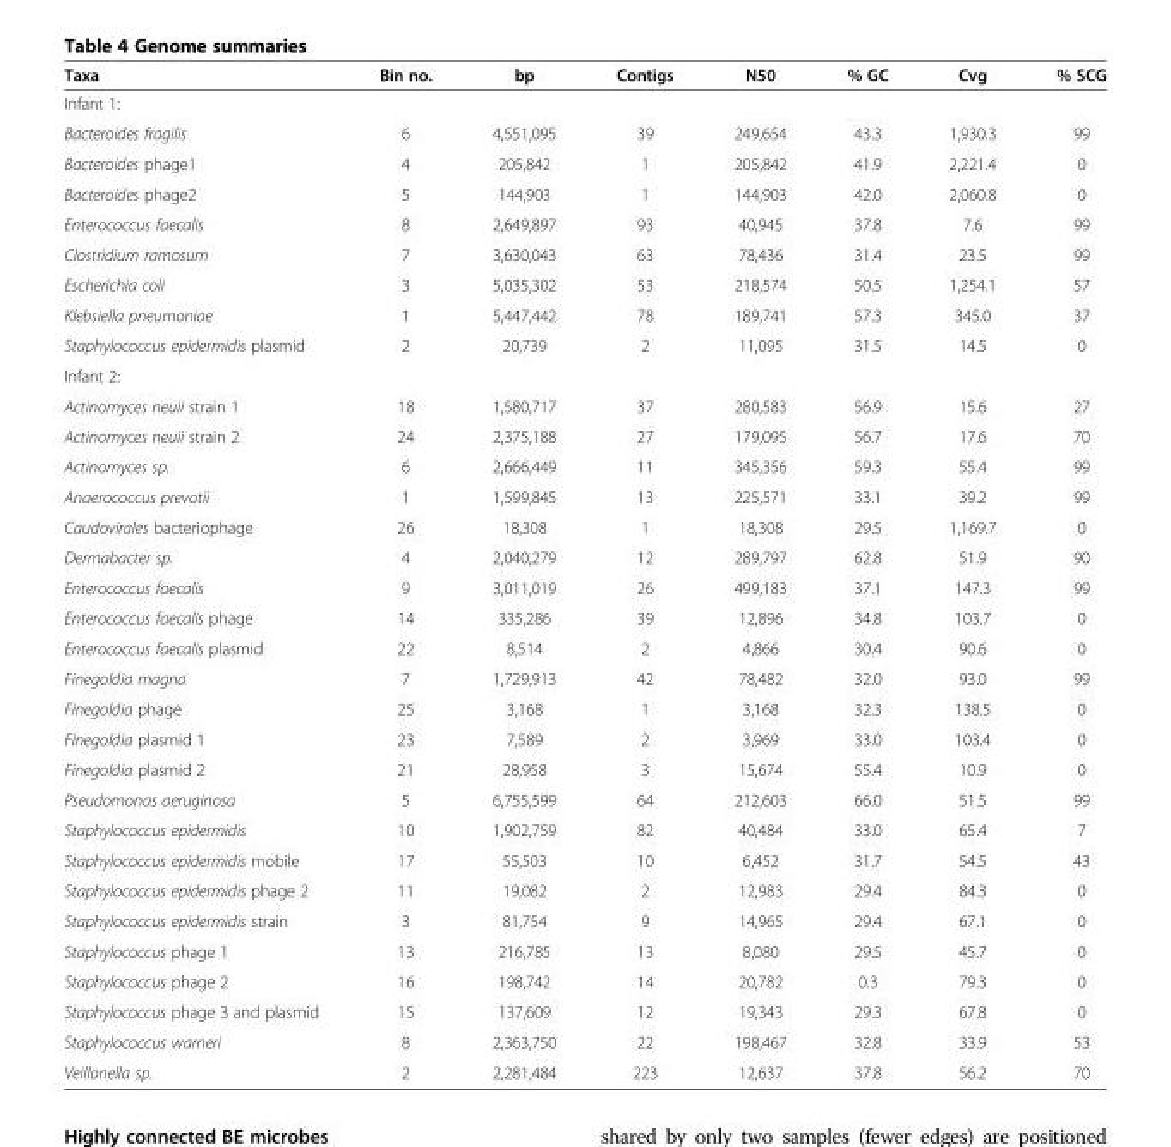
<table><thead><tr><td>Taxa</td><td>Bin no.</td><td>bp</td><td>Contigs</td><td>N50</td><td>% GC</td><td>Cvg</td><td>% SCG</td></tr></thead><tbody><tr><td colspan="8">Infant 1:</td></tr><tr><td>Bacteroides fragilis</td><td>6</td><td>4,551,095</td><td>39</td><td>249,654</td><td>43.3</td><td>1,930.3</td><td>99</td></tr><tr><td>Bacteroides phage1</td><td>4</td><td>205,842</td><td>1</td><td>205,842</td><td>41.9</td><td>2,221.4</td><td>0</td></tr><tr><td>Bacteroides phage2</td><td>5</td><td>144,903</td><td>1</td><td>144,903</td><td>42.0</td><td>2,060.8</td><td>0</td></tr><tr><td>Enterococcus faecalis</td><td>8</td><td>2,649,897</td><td>93</td><td>40,945</td><td>37.8</td><td>7.6</td><td>99</td></tr><tr><td>Clostridium ramosum</td><td>7</td><td>3,630,043</td><td>63</td><td>78,436</td><td>31.4</td><td>23.5</td><td>99</td></tr><tr><td>Escherichia coli</td><td>3</td><td>5,035,302</td><td>53</td><td>218,574</td><td>50.5</td><td>1,254.1</td><td>57</td></tr><tr><td>Klebsiella pneumoniae</td><td>1</td><td>5,447,442</td><td>78</td><td>189,741</td><td>57.3</td><td>345.0</td><td>37</td></tr><tr><td>Staphylococcus epidermidis plasmid</td><td>2</td><td>20,739</td><td>2</td><td>11,095</td><td>31.5</td><td>14.5</td><td>0</td></tr><tr><td colspan="8">Infant 2:</td></tr><tr><td>Actinomyces neuii strain 1</td><td>18</td><td>1,580,717</td><td>37</td><td>280,583</td><td>56.9</td><td>15.6</td><td>27</td></tr><tr><td>Actinomyces neuii strain 2</td><td>24</td><td>2,375,188</td><td>27</td><td>179,095</td><td>56.7</td><td>17.6</td><td>70</td></tr><tr><td>Actinomyces sp.</td><td>6</td><td>2,666,449</td><td>11</td><td>345,356</td><td>59.3</td><td>55.4</td><td>99</td></tr><tr><td>Anaerococcus prevotii</td><td>1</td><td>1,599,845</td><td>13</td><td>225,571</td><td>33.1</td><td>39.2</td><td>99</td></tr><tr><td>Caudovirales bacteriophage</td><td>26</td><td>18,308</td><td>1</td><td>18,308</td><td>29.5</td><td>1,169.7</td><td>0</td></tr><tr><td>Dermabacter sp.</td><td>4</td><td>2,040,279</td><td>12</td><td>289,797</td><td>62.8</td><td>51.9</td><td>90</td></tr><tr><td>Enterococcus faecalis</td><td>9</td><td>3,011,019</td><td>26</td><td>499,183</td><td>37.1</td><td>147.3</td><td>99</td></tr><tr><td>Enterococcus faecalis phage</td><td>14</td><td>335,286</td><td>39</td><td>12,896</td><td>34.8</td><td>103.7</td><td>0</td></tr><tr><td>Enterococcus faecalis plasmid</td><td>22</td><td>8,514</td><td>2</td><td>4,866</td><td>30.4</td><td>90.6</td><td>0</td></tr><tr><td>Finegoldia magna</td><td>7</td><td>1,729,913</td><td>42</td><td>78,482</td><td>32.0</td><td>93.0</td><td>99</td></tr><tr><td>Finegoldia phage</td><td>25</td><td>3,168</td><td>1</td><td>3,168</td><td>32.3</td><td>138.5</td><td>0</td></tr><tr><td>Finegoldia plasmid 1</td><td>23</td><td>7,589</td><td>2</td><td>3,969</td><td>33.0</td><td>103.4</td><td>0</td></tr><tr><td>Finegoldia plasmid 2</td><td>21</td><td>28,958</td><td>3</td><td>15,674</td><td>55.4</td><td>10.9</td><td>0</td></tr><tr><td>Pseudomonas aeruginosa</td><td>5</td><td>6,755,599</td><td>64</td><td>212,603</td><td>66.0</td><td>51.5</td><td>99</td></tr><tr><td>Staphylococcus epidermidis</td><td>10</td><td>1,902,759</td><td>82</td><td>40,484</td><td>33.0</td><td>65.4</td><td>7</td></tr><tr><td>Staphylococcus epidermidis mobile</td><td>17</td><td>55,503</td><td>10</td><td>6,452</td><td>31.7</td><td>54.5</td><td>43</td></tr><tr><td>Staphylococcus epidermidis phage 2</td><td>11</td><td>19,082</td><td>2</td><td>12,983</td><td>29.4</td><td>84.3</td><td>0</td></tr><tr><td>Staphylococcus epidermidis strain</td><td>3</td><td>81,754</td><td>9</td><td>14,965</td><td>29.4</td><td>67.1</td><td>0</td></tr><tr><td>Staphylococcus phage 1</td><td>13</td><td>216,785</td><td>13</td><td>8,080</td><td>29.5</td><td>45.7</td><td>0</td></tr><tr><td>Staphylococcus phage 2</td><td>16</td><td>198,742</td><td>14</td><td>20,782</td><td>0.3</td><td>79.3</td><td>0</td></tr><tr><td>Staphylococcus phage 3 and plasmid</td><td>15</td><td>137,609</td><td>12</td><td>19,343</td><td>29.3</td><td>67.8</td><td>0</td></tr><tr><td>Staphylococcus warneri</td><td>8</td><td>2,363,750</td><td>22</td><td>198,467</td><td>32.8</td><td>33.9</td><td>53</td></tr><tr><td>Veillonella sp.</td><td>2</td><td>2,281,484</td><td>223</td><td>12,637</td><td>37.8</td><td>56.2</td><td>70</td></tr></tbody></table>